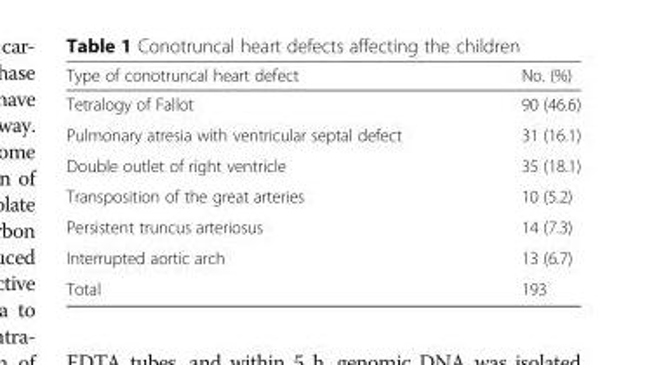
<table><thead><tr><td>Type of conotruncal heart defect</td><td>No. (%)</td></tr></thead><tbody><tr><td>Tetralogy of Fallot</td><td>90 (46.6)</td></tr><tr><td>Pulmonary atresia with ventricular septal defect</td><td>31 (16.1)</td></tr><tr><td>Double outlet of right ventricle</td><td>35 (18.1)</td></tr><tr><td>Transposition of the great arteries</td><td>10 (5.2)</td></tr><tr><td>Persistent truncus arteriosus</td><td>14 (7.3)</td></tr><tr><td>Interrupted aortic arch</td><td>13 (6.7)</td></tr><tr><td>Total</td><td>193</td></tr></tbody></table>